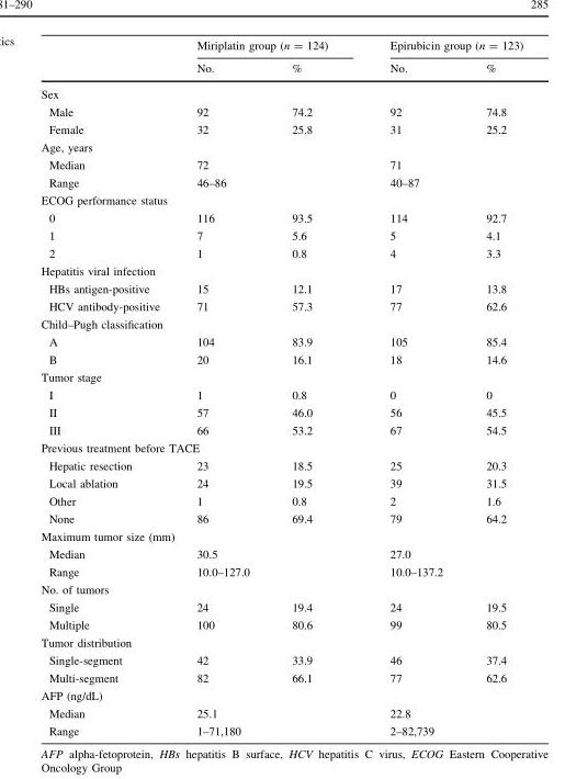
<table><thead><tr><td rowspan="2"></td><td colspan="2">Miriplatin group (n = 124)</td><td colspan="2">Epirubicin group (n = 123)</td></tr><tr><td>No.</td><td>%</td><td>No.</td><td>%</td></tr></thead><tbody><tr><td colspan="5">Sex</td></tr><tr><td>Male</td><td>92</td><td>74.2</td><td>92</td><td>74.8</td></tr><tr><td>Female</td><td>32</td><td>25.8</td><td>31</td><td>25.2</td></tr><tr><td colspan="5">Age, years</td></tr><tr><td>Median</td><td colspan="2">72</td><td colspan="2">71</td></tr><tr><td>Range</td><td colspan="2">46–86</td><td colspan="2">40–87</td></tr><tr><td colspan="5">ECOG performance status</td></tr><tr><td>0</td><td>116</td><td>93.5</td><td>114</td><td>92.7</td></tr><tr><td>1</td><td>7</td><td>5.6</td><td>5</td><td>4.1</td></tr><tr><td>2</td><td>1</td><td>0.8</td><td>4</td><td>3.3</td></tr><tr><td colspan="5">Hepatitis viral infection</td></tr><tr><td>HBs antigen-positive</td><td>15</td><td>12.1</td><td>17</td><td>13.8</td></tr><tr><td>HCV antibody-positive</td><td>71</td><td>57.3</td><td>77</td><td>62.6</td></tr><tr><td colspan="5">Child–Pugh classification</td></tr><tr><td>A</td><td>104</td><td>83.9</td><td>105</td><td>85.4</td></tr><tr><td>B</td><td>20</td><td>16.1</td><td>18</td><td>14.6</td></tr><tr><td colspan="5">Tumor stage</td></tr><tr><td>I</td><td>1</td><td>0.8</td><td>0</td><td>0</td></tr><tr><td>II</td><td>57</td><td>46.0</td><td>56</td><td>45.5</td></tr><tr><td>III</td><td>66</td><td>53.2</td><td>67</td><td>54.5</td></tr><tr><td colspan="5">Previous treatment before TACE</td></tr><tr><td>Hepatic resection</td><td>23</td><td>18.5</td><td>25</td><td>20.3</td></tr><tr><td>Local ablation</td><td>24</td><td>19.5</td><td>39</td><td>31.5</td></tr><tr><td>Other</td><td>1</td><td>0.8</td><td>2</td><td>1.6</td></tr><tr><td>None</td><td>86</td><td>69.4</td><td>79</td><td>64.2</td></tr><tr><td colspan="5">Maximum tumor size (mm)</td></tr><tr><td>Median</td><td colspan="2">30.5</td><td colspan="2">27.0</td></tr><tr><td>Range</td><td colspan="2">10.0–127.0</td><td colspan="2">10.0–137.2</td></tr><tr><td colspan="5">No. of tumors</td></tr><tr><td>Single</td><td>24</td><td>19.4</td><td>24</td><td>19.5</td></tr><tr><td>Multiple</td><td>100</td><td>80.6</td><td>99</td><td>80.5</td></tr><tr><td colspan="5">Tumor distribution</td></tr><tr><td>Single-segment</td><td>42</td><td>33.9</td><td>46</td><td>37.4</td></tr><tr><td>Multi-segment</td><td>82</td><td>66.1</td><td>77</td><td>62.6</td></tr><tr><td colspan="5">AFP (ng/dL)</td></tr><tr><td>Median</td><td colspan="2">25.1</td><td colspan="2">22.8</td></tr><tr><td>Range</td><td colspan="2">1–71,180</td><td colspan="2">2–82,739</td></tr></tbody></table>